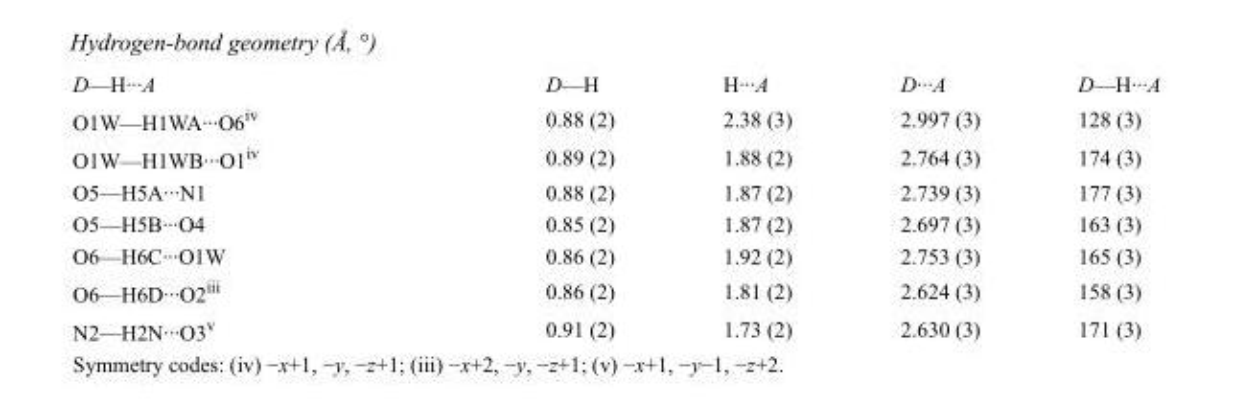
<table><tbody><tr><td>D—H···A</td><td>D—H</td><td>H···A</td><td>D···A</td><td>D—H···A</td></tr><tr><td>O1W—H1WA···O6<sup>iv</sup></td><td>0.88 (2)</td><td>2.38 (3)</td><td>2.997 (3)</td><td>128 (3)</td></tr><tr><td>O1W—H1WB···O1<sup>iv</sup></td><td>0.89 (2)</td><td>1.88 (2)</td><td>2.764 (3)</td><td>174 (3)</td></tr><tr><td>O5—H5A···N1</td><td>0.88 (2)</td><td>1.87 (2)</td><td>2.739 (3)</td><td>177 (3)</td></tr><tr><td>O5—H5B···O4</td><td>0.85 (2)</td><td>1.87 (2)</td><td>2.697 (3)</td><td>163 (3)</td></tr><tr><td>O6—H6C···O1W</td><td>0.86 (2)</td><td>1.92 (2)</td><td>2.753 (3)</td><td>165 (3)</td></tr><tr><td>O6—H6D···O2<sup>iii</sup></td><td>0.86 (2)</td><td>1.81 (2)</td><td>2.624 (3)</td><td>158 (3)</td></tr><tr><td>N2—H2N···O3<sup>v</sup></td><td>0.91 (2)</td><td>1.73 (2)</td><td>2.630 (3)</td><td>171 (3)</td></tr></tbody></table>